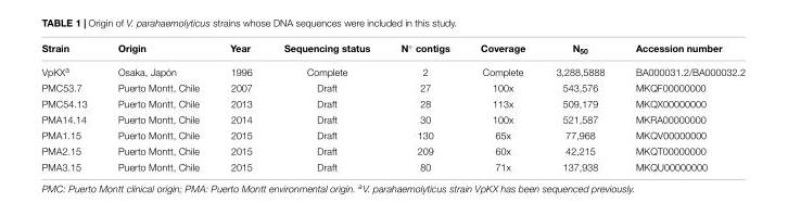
<table><thead><tr><td>Strain</td><td>Origin</td><td>Year</td><td>Sequencing status</td><td>N◦ contigs</td><td>Coverage</td><td>N<sub>50</sub></td><td>Accession number</td></tr></thead><tbody><tr><td>VpKX<sup>a</sup></td><td>Osaka, Japón</td><td>1996</td><td>Complete</td><td>2</td><td>Complete</td><td>3,288,5888</td><td>BA000031.2/BA000032.2</td></tr><tr><td>PMC53.7</td><td>Puerto Montt, Chile</td><td>2007</td><td>Draft</td><td>27</td><td>100x</td><td>543,576</td><td>MKQF00000000</td></tr><tr><td>PMC54.13</td><td>Puerto Montt, Chile</td><td>2013</td><td>Draft</td><td>28</td><td>113x</td><td>509,179</td><td>MKQX00000000</td></tr><tr><td>PMA14.14</td><td>Puerto Montt, Chile</td><td>2014</td><td>Draft</td><td>30</td><td>100x</td><td>521,587</td><td>MKRA00000000</td></tr><tr><td>PMA1.15</td><td>Puerto Montt, Chile</td><td>2015</td><td>Draft</td><td>130</td><td>65x</td><td>77,968</td><td>MKQV00000000</td></tr><tr><td>PMA2.15</td><td>Puerto Montt, Chile</td><td>2015</td><td>Draft</td><td>209</td><td>60x</td><td>42,215</td><td>MKQT00000000</td></tr><tr><td>PMA3.15</td><td>Puerto Montt, Chile</td><td>2015</td><td>Draft</td><td>80</td><td>71x</td><td>137,938</td><td>MKQU00000000</td></tr></tbody></table>